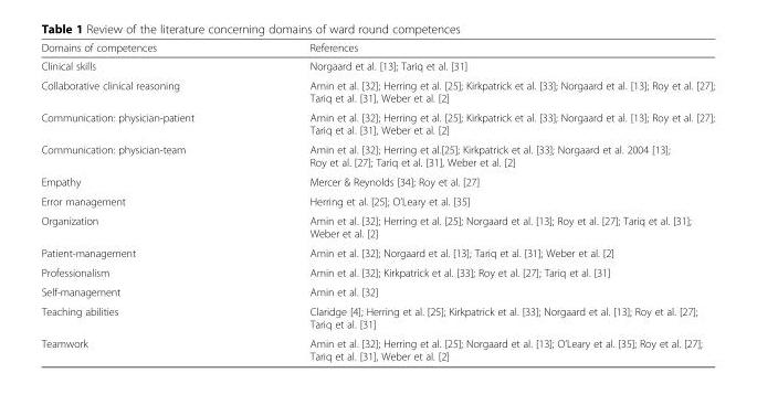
<table><thead><tr><td>Domains of competences</td><td>References</td></tr></thead><tbody><tr><td>Clinical skills</td><td>Norgaard et al. [13]; Tariq et al. [31]</td></tr><tr><td>Collaborative clinical reasoning</td><td>Amin et al. [32]; Herring et al. [25]; Kirkpatrick et al. [33]; Norgaard et al. [13]; Roy et al. [27]; Tariq et al. [31], Weber et al. [2]</td></tr><tr><td>Communication: physician-patient</td><td>Amin et al. [32]; Herring et al. [25]; Kirkpatrick et al. [33]; Norgaard et al. [13]; Roy et al. [27]; Tariq et al. [31], Weber et al. [2]</td></tr><tr><td>Communication: physician-team</td><td>Amin et al. [32]; Herring et al.[25]; Kirkpatrick et al. [33]; Norgaard et al. 2004 [13]; Roy et al. [27]; Tariq et al. [31], Weber et al. [2]</td></tr><tr><td>Empathy</td><td>Mercer &amp; Reynolds [34]; Roy et al. [27]</td></tr><tr><td>Error management</td><td>Herring et al. [25]; O’Leary et al. [35]</td></tr><tr><td>Organization</td><td>Amin et al. [32]; Herring et al. [25]; Norgaard et al. [13]; Roy et al. [27]; Tariq et al. [31]; Weber et al. [2]</td></tr><tr><td>Patient-management</td><td>Amin et al. [32]; Norgaard et al. [13]; Tariq et al. [31]; Weber et al. [2]</td></tr><tr><td>Professionalism</td><td>Amin et al. [32]; Kirkpatrick et al. [33]; Roy et al. [27]; Tariq et al. [31]</td></tr><tr><td>Self-management</td><td>Amin et al. [32]</td></tr><tr><td>Teaching abilities</td><td>Claridge [4]; Herring et al. [25]; Kirkpatrick et al. [33]; Norgaard et al. [13]; Roy et al. [27]; Tariq et al. [31]</td></tr><tr><td>Teamwork</td><td>Amin et al. [32]; Herring et al. [25]; Norgaard et al. [13]; O’Leary et al. [35]; Roy et al. [27]; Tariq et al. [31], Weber et al. [2]</td></tr></tbody></table>